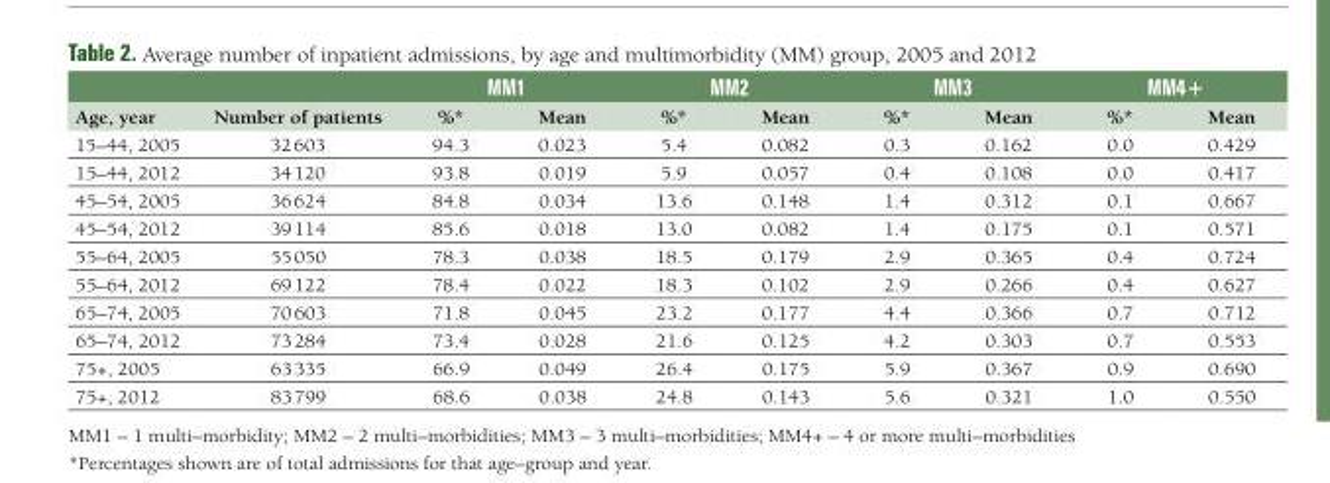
<table><thead><tr><td rowspan="2">Age, year</td><td rowspan="2">Number of patients</td><td colspan="2">MM1</td><td colspan="2">MM2</td><td colspan="2">MM3</td><td colspan="2">MM4+</td></tr><tr><td>%*</td><td>Mean</td><td>%*</td><td>Mean</td><td>%*</td><td>Mean</td><td>%*</td><td>Mean</td></tr></thead><tbody><tr><td>15–44, 2005</td><td>32 603</td><td>94.3</td><td>0.023</td><td>5.4</td><td>0.082</td><td>0.3</td><td>0.162</td><td>0.0</td><td>0.429</td></tr><tr><td>15–44, 2012</td><td>34 120</td><td>93.8</td><td>0.019</td><td>5.9</td><td>0.057</td><td>0.4</td><td>0.108</td><td>0.0</td><td>0.417</td></tr><tr><td>45–54, 2005</td><td>36 624</td><td>84.8</td><td>0.034</td><td>13.6</td><td>0.148</td><td>1.4</td><td>0.312</td><td>0.1</td><td>0.667</td></tr><tr><td>45–54, 2012</td><td>39 114</td><td>85.6</td><td>0.018</td><td>13.0</td><td>0.082</td><td>1.4</td><td>0.175</td><td>0.1</td><td>0.571</td></tr><tr><td>55–64, 2005</td><td>55 050</td><td>78.3</td><td>0.038</td><td>18.5</td><td>0.179</td><td>2.9</td><td>0.365</td><td>0.4</td><td>0.724</td></tr><tr><td>55–64, 2012</td><td>69 122</td><td>78.4</td><td>0.022</td><td>18.3</td><td>0.102</td><td>2.9</td><td>0.266</td><td>0.4</td><td>0.627</td></tr><tr><td>65–74, 2005</td><td>70 603</td><td>71.8</td><td>0.045</td><td>23.2</td><td>0.177</td><td>4.4</td><td>0.366</td><td>0.7</td><td>0.712</td></tr><tr><td>65–74, 2012</td><td>73 284</td><td>73.4</td><td>0.028</td><td>21.6</td><td>0.125</td><td>4.2</td><td>0.303</td><td>0.7</td><td>0.553</td></tr><tr><td>75+, 2005</td><td>63 335</td><td>66.9</td><td>0.049</td><td>26.4</td><td>0.175</td><td>5.9</td><td>0.367</td><td>0.9</td><td>0.690</td></tr><tr><td>75+, 2012</td><td>83 799</td><td>68.6</td><td>0.038</td><td>24.8</td><td>0.143</td><td>5.6</td><td>0.321</td><td>1.0</td><td>0.550</td></tr></tbody></table>